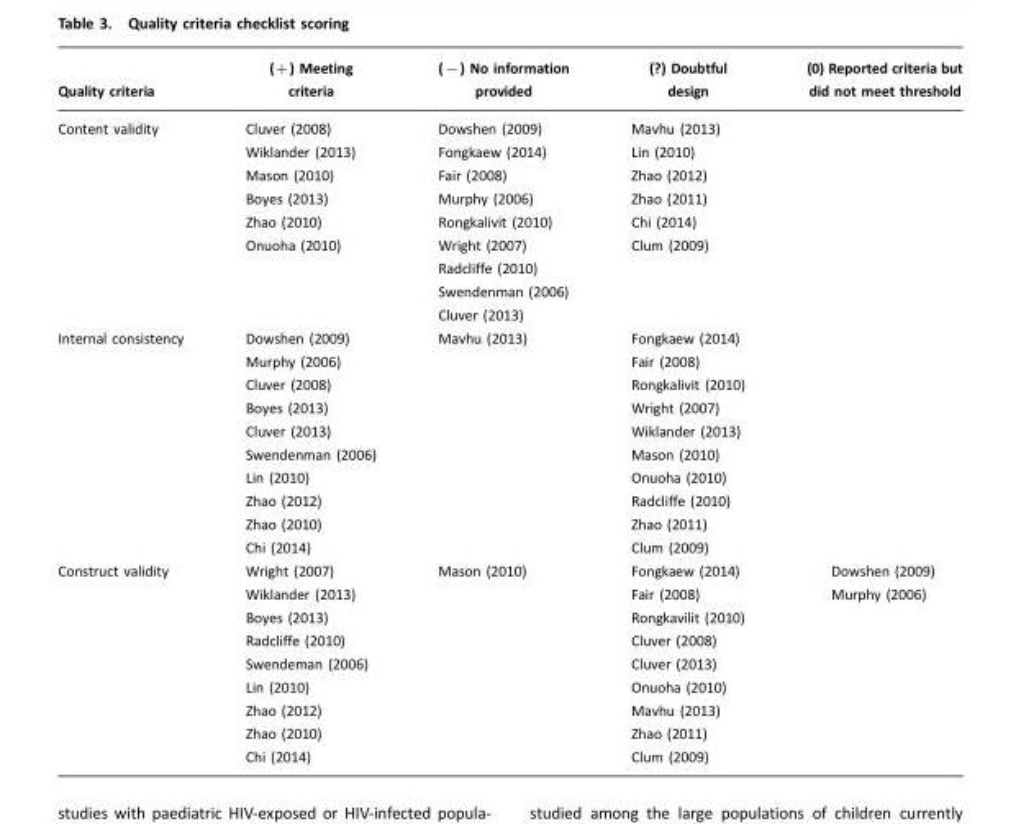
<table><thead><tr><td>Quality criteria</td><td>(+) Meeting criteria</td><td>(−) No information provided</td><td>(?) Doubtful design</td><td>(0) Reported criteria but did not meet threshold</td></tr></thead><tbody><tr><td rowspan="9">Content validity</td><td>Cluver (2008)</td><td>Dowshen (2009)</td><td>Mavhu (2013)</td><td></td></tr><tr><td>Wiklander (2013)</td><td>Fongkaew (2014)</td><td>Lin (2010)</td><td></td></tr><tr><td>Mason (2010)</td><td>Fair (2008)</td><td>Zhao (2012)</td><td></td></tr><tr><td>Boyes (2013)</td><td>Murphy (2006)</td><td>Zhao (2011)</td><td></td></tr><tr><td>Zhao (2010)</td><td>Rongkalivit (2010)</td><td>Chi (2014)</td><td></td></tr><tr><td>Onuoha (2010)</td><td>Wright (2007)</td><td>Clum (2009)</td><td></td></tr><tr><td></td><td>Radcliffe (2010)</td><td></td><td></td></tr><tr><td></td><td>Swendenman (2006)</td><td></td><td></td></tr><tr><td></td><td>Cluver (2013)</td><td></td><td></td></tr><tr><td rowspan="10">Internal consistency</td><td>Dowshen (2009)</td><td>Mavhu (2013)</td><td>Fongkaew (2014)</td><td></td></tr><tr><td>Murphy (2006)</td><td></td><td>Fair (2008)</td><td></td></tr><tr><td>Cluver (2008)</td><td></td><td>Rongkalivit (2010)</td><td></td></tr><tr><td>Boyes (2013)</td><td></td><td>Wright (2007)</td><td></td></tr><tr><td>Cluver (2013)</td><td></td><td>Wiklander (2013)</td><td></td></tr><tr><td>Swendenman (2006)</td><td></td><td>Mason (2010)</td><td></td></tr><tr><td>Lin (2010)</td><td></td><td>Onuoha (2010)</td><td></td></tr><tr><td>Zhao (2012)</td><td></td><td>Radcliffe (2010)</td><td></td></tr><tr><td>Zhao (2010)</td><td></td><td>Zhao (2011)</td><td></td></tr><tr><td>Chi (2014)</td><td></td><td>Clum (2009)</td><td></td></tr><tr><td rowspan="9">Construct validity</td><td>Wright (2007)</td><td>Mason (2010)</td><td>Fongkaew (2014)</td><td>Dowshen (2009)</td></tr><tr><td>Wiklander (2013)</td><td></td><td>Fair (2008)</td><td>Murphy (2006)</td></tr><tr><td>Boyes (2013)</td><td></td><td>Rongkavilit (2010)</td><td></td></tr><tr><td>Radcliffe (2010)</td><td></td><td>Cluver (2008)</td><td></td></tr><tr><td>Swendeman (2006)</td><td></td><td>Cluver (2013)</td><td></td></tr><tr><td>Lin (2010)</td><td></td><td>Onuoha (2010)</td><td></td></tr><tr><td>Zhao (2012)</td><td></td><td>Mavhu (2013)</td><td></td></tr><tr><td>Zhao (2010)</td><td></td><td>Zhao (2011)</td><td></td></tr><tr><td>Chi (2014)</td><td></td><td>Clum (2009)</td><td></td></tr></tbody></table>